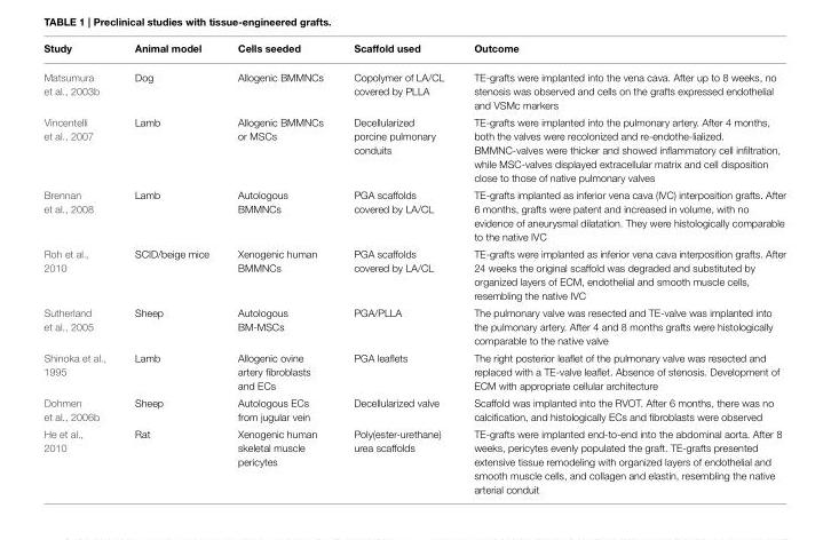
<table><thead><tr><td>Study</td><td>Animal model</td><td>Cells seeded</td><td>Scaffold used</td><td>Outcome</td></tr></thead><tbody><tr><td>Matsumura et al., 2003b</td><td>Dog</td><td>Allogenic BMMNCs</td><td>Copolymer of LA/CL covered by PLLA</td><td>TE-grafts were implanted into the vena cava. After up to 8 weeks, no stenosis was observed and cells on the grafts expressed endothelial and VSMc markers</td></tr><tr><td>Vincentelli et al., 2007</td><td>Lamb</td><td>Allogenic BMMNCs or MSCs</td><td>Decellularized porcine pulmonary conduits</td><td>TE-grafts were implanted into the pulmonary artery. After 4 months, both the valves were recolonized and re-endothe-lialized. BMMNC-valves were thicker and showed inflammatory cell infiltration, while MSC-valves displayed extracellular matrix and cell disposition close to those of native pulmonary valves</td></tr><tr><td>Brennan et al., 2008</td><td>Lamb</td><td>Autologous BMMNCs</td><td>PGA scaffolds covered by LA/CL</td><td>TE-grafts implanted as inferior vena cava (IVC) interposition grafts. After 6 months, grafts were patent and increased in volume, with no evidence of aneurysmal dilatation. They were histologically comparable to the native IVC</td></tr><tr><td>Roh et al., 2010</td><td>SCID/beige mice</td><td>Xenogenic human BMMNCs</td><td>PGA scaffolds covered by LA/CL</td><td>TE-grafts were implanted as inferior vena cava interposition grafts. After 24 weeks the original scaffold was degraded and substituted by organized layers of ECM, endothelial and smooth muscle cells, resembling the native IVC</td></tr><tr><td>Sutherland et al., 2005</td><td>Sheep</td><td>Autologous BM-MSCs</td><td>PGA/PLLA</td><td>The pulmonary valve was resected and TE-valve was implanted into the pulmonary artery. After 4 and 8 months grafts were histologically comparable to the native valve</td></tr><tr><td>Shinoka et al., 1995</td><td>Lamb</td><td>Allogenic ovine artery fibroblasts and ECs</td><td>PGA leaflets</td><td>The right posterior leaflet of the pulmonary valve was resected and replaced with a TE-valve leaflet. Absence of stenosis. Development of ECM with appropriate cellular architecture</td></tr><tr><td>Dohmen et al., 2006b</td><td>Sheep</td><td>Autologous ECs from jugular vein</td><td>Decellularized valve</td><td>Scaffold was implanted into the RVOT. After 6 months, there was no calcification, and histologically ECs and fibroblasts were observed</td></tr><tr><td>He et al., 2010</td><td>Rat</td><td>Xenogenic human skeletal muscle pericytes</td><td>Poly(ester-urethane) urea scaffolds</td><td>TE-grafts were implanted end-to-end into the abdominal aorta. After 8 weeks, pericytes evenly populated the graft. TE-grafts presented extensive tissue remodeling with organized layers of endothelial and smooth muscle cells, and collagen and elastin, resembling the native arterial conduit</td></tr></tbody></table>